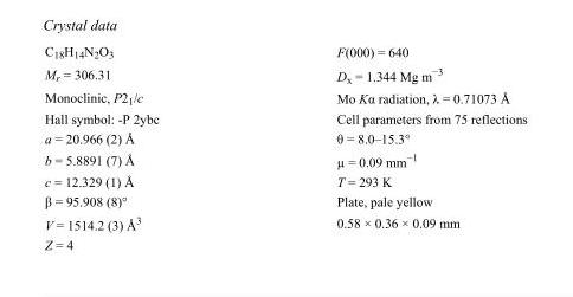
<table><tbody><tr><td>C<sub>18</sub>H<sub>14</sub>N<sub>2</sub>O<sub>3</sub></td><td>F(000) = 640</td></tr><tr><td>M<sub>r</sub> = 306.31</td><td>D<sub>x</sub> = 1.344 Mg m<sup>−3</sup></td></tr><tr><td>Monoclinic, P2<sub>1</sub>/c</td><td>Mo Kα radiation, λ = 0.71073 Å</td></tr><tr><td>Hall symbol: -P 2ybc</td><td>Cell parameters from 75 reflections</td></tr><tr><td>a = 20.966 (2) Å</td><td>θ = 8.0–15.3°</td></tr><tr><td>b = 5.8891 (7) Å</td><td>µ = 0.09 mm<sup>−1</sup></td></tr><tr><td>c = 12.329 (1) Å</td><td>T = 293 K</td></tr><tr><td>β = 95.908 (8)°</td><td>Plate, pale yellow</td></tr><tr><td>V = 1514.2 (3) Å<sup>3</sup></td><td>0.58 × 0.36 × 0.09 mm</td></tr><tr><td>Z = 4</td><td></td></tr></tbody></table>